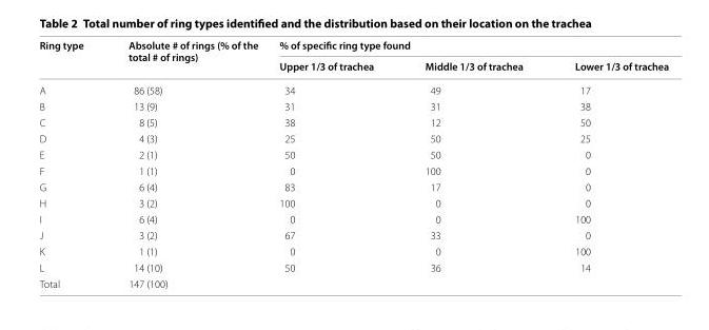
<table><thead><tr><td rowspan="2">Ring type</td><td rowspan="2">Absolute # of rings (% of the total # of rings)</td><td colspan="3">% of specific ring type found</td></tr><tr><td>Upper 1/3 of trachea</td><td>Middle 1/3 of trachea</td><td>Lower 1/3 of trachea</td></tr></thead><tbody><tr><td>A</td><td>86 (58)</td><td>34</td><td>49</td><td>17</td></tr><tr><td>B</td><td>13 (9)</td><td>31</td><td>31</td><td>38</td></tr><tr><td>C</td><td>8 (5)</td><td>38</td><td>12</td><td>50</td></tr><tr><td>D</td><td>4 (3)</td><td>25</td><td>50</td><td>25</td></tr><tr><td>E</td><td>2 (1)</td><td>50</td><td>50</td><td>0</td></tr><tr><td>F</td><td>1 (1)</td><td>0</td><td>100</td><td>0</td></tr><tr><td>G</td><td>6 (4)</td><td>83</td><td>17</td><td>0</td></tr><tr><td>H</td><td>3 (2)</td><td>100</td><td>0</td><td>0</td></tr><tr><td>I</td><td>6 (4)</td><td>0</td><td>0</td><td>100</td></tr><tr><td>J</td><td>3 (2)</td><td>67</td><td>33</td><td>0</td></tr><tr><td>K</td><td>1 (1)</td><td>0</td><td>0</td><td>100</td></tr><tr><td>L</td><td>14 (10)</td><td>50</td><td>36</td><td>14</td></tr><tr><td>Total</td><td>147 (100)</td><td></td><td></td><td></td></tr></tbody></table>